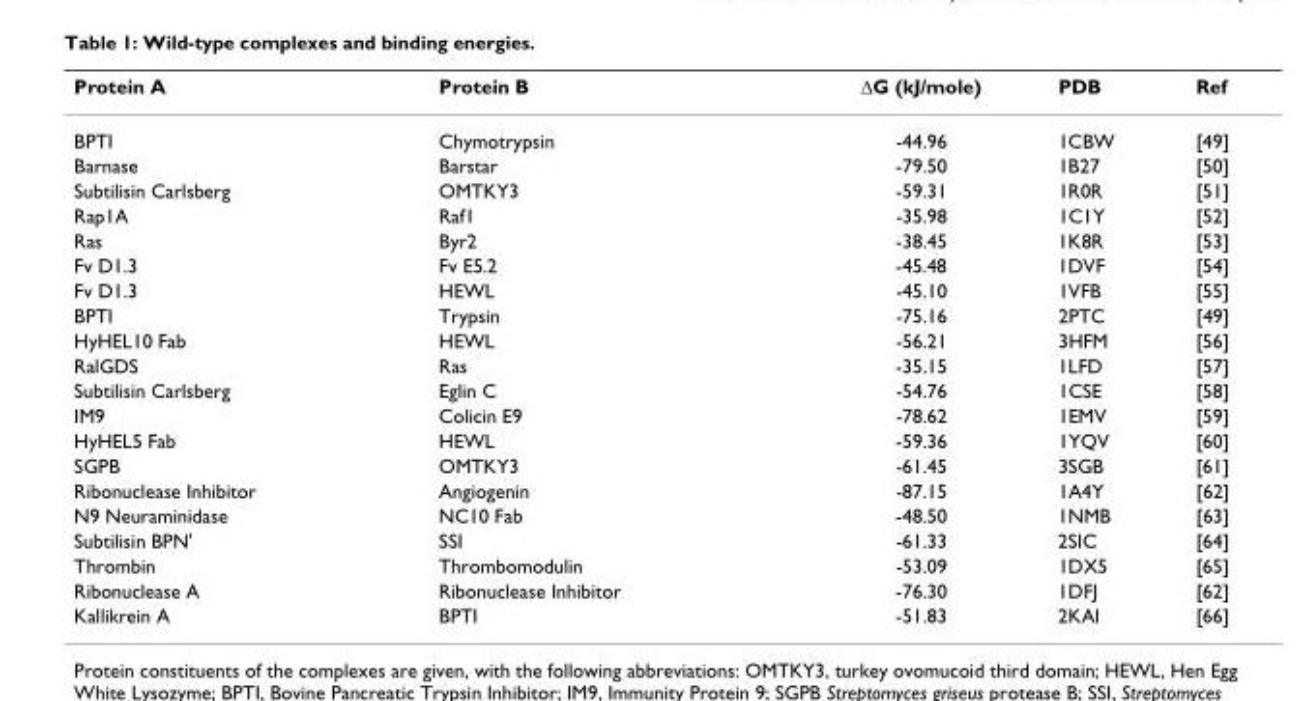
<table><thead><tr><td>Protein A</td><td>Protein B</td><td>ΔG (kJ/mole)</td><td>PDB</td><td>Ref</td></tr></thead><tbody><tr><td>BPTI</td><td>Chymotrypsin</td><td>-44.96</td><td>1CBW</td><td>[49]</td></tr><tr><td>Barnase</td><td>Barstar</td><td>-79.50</td><td>1B27</td><td>[50]</td></tr><tr><td>Subtilisin Carlsberg</td><td>OMTKY3</td><td>-59.31</td><td>1R0R</td><td>[51]</td></tr><tr><td>Rap1A</td><td>Raf1</td><td>-35.98</td><td>1C1Y</td><td>[52]</td></tr><tr><td>Ras</td><td>Byr2</td><td>-38.45</td><td>1K8R</td><td>[53]</td></tr><tr><td>Fv D1.3</td><td>Fv E5.2</td><td>-45.48</td><td>1DVF</td><td>[54]</td></tr><tr><td>Fv D1.3</td><td>HEWL</td><td>-45.10</td><td>1VFB</td><td>[55]</td></tr><tr><td>BPTI</td><td>Trypsin</td><td>-75.16</td><td>2PTC</td><td>[49]</td></tr><tr><td>HyHEL10 Fab</td><td>HEWL</td><td>-56.21</td><td>3HFM</td><td>[56]</td></tr><tr><td>RalGDS</td><td>Ras</td><td>-35.15</td><td>1LFD</td><td>[57]</td></tr><tr><td>Subtilisin Carlsberg</td><td>Eglin C</td><td>-54.76</td><td>1CSE</td><td>[58]</td></tr><tr><td>IM9</td><td>Colicin E9</td><td>-78.62</td><td>1EMV</td><td>[59]</td></tr><tr><td>HyHEL5 Fab</td><td>HEWL</td><td>-59.36</td><td>1YQV</td><td>[60]</td></tr><tr><td>SGPB</td><td>OMTKY3</td><td>-61.45</td><td>3SGB</td><td>[61]</td></tr><tr><td>Ribonuclease Inhibitor</td><td>Angiogenin</td><td>-87.15</td><td>1A4Y</td><td>[62]</td></tr><tr><td>N9 Neuraminidase</td><td>NC10 Fab</td><td>-48.50</td><td>1NMB</td><td>[63]</td></tr><tr><td>Subtilisin BPN&#x27;</td><td>SSI</td><td>-61.33</td><td>2SIC</td><td>[64]</td></tr><tr><td>Thrombin</td><td>Thrombomodulin</td><td>-53.09</td><td>1DX5</td><td>[65]</td></tr><tr><td>Ribonuclease A</td><td>Ribonuclease Inhibitor</td><td>-76.30</td><td>1DFJ</td><td>[62]</td></tr><tr><td>Kallikrein A</td><td>BPTI</td><td>-51.83</td><td>2KAI</td><td>[66]</td></tr></tbody></table>